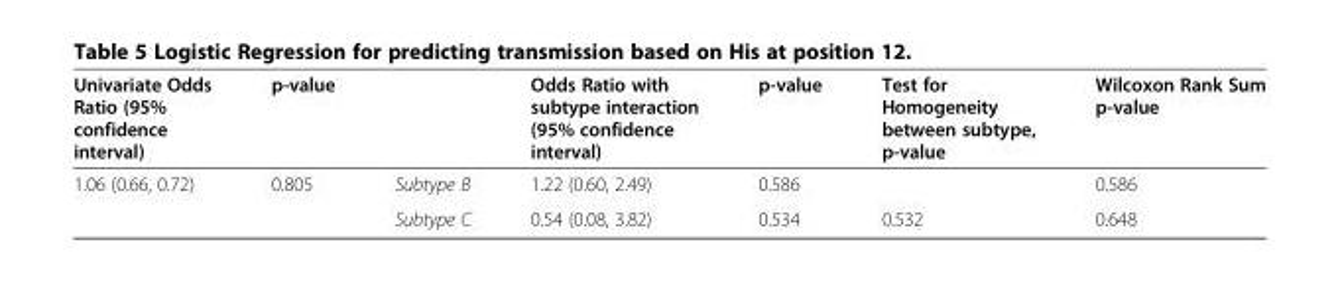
<table><thead><tr><td>Univariate Odds Ratio (95% confidence interval)</td><td>p-value</td><td></td><td>Odds Ratio with subtype interaction (95% confidence interval)</td><td>p-value</td><td>Test for Homogeneity between subtype, p-value</td><td>Wilcoxon Rank Sum p-value</td></tr></thead><tbody><tr><td rowspan="2">1.06 (0.66, 0.72)</td><td>0.805</td><td>Subtype B</td><td>1.22 (0.60, 2.49)</td><td>0.586</td><td></td><td>0.586</td></tr><tr><td></td><td>Subtype C</td><td>0.54 (0.08, 3.82)</td><td>0.534</td><td>0.532</td><td>0.648</td></tr></tbody></table>